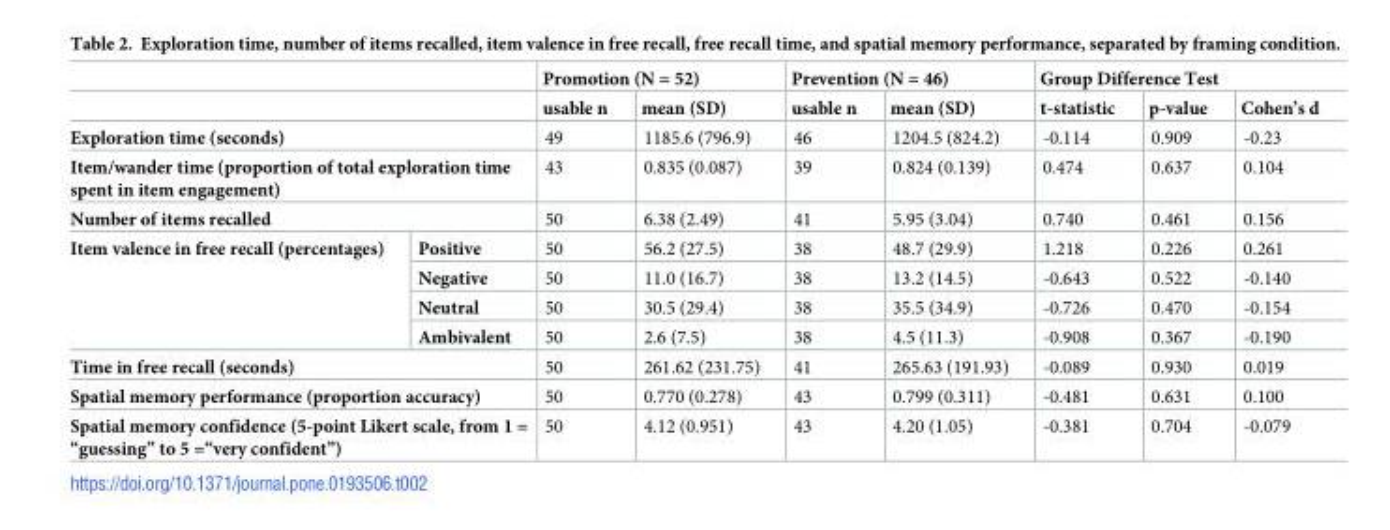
<table><thead><tr><td rowspan="2"></td><td rowspan="2"></td><td colspan="2">Promotion (N = 52)</td><td colspan="2">Prevention (N = 46)</td><td colspan="3">Group Difference Test</td></tr><tr><td>usable n</td><td>mean (SD)</td><td>usable n</td><td>mean (SD)</td><td>t-statistic</td><td>p-value</td><td>Cohen’s d</td></tr></thead><tbody><tr><td colspan="2">Exploration time (seconds)</td><td>49</td><td>1185.6 (796.9)</td><td>46</td><td>1204.5 (824.2)</td><td>-0.114</td><td>0.909</td><td>-0.23</td></tr><tr><td colspan="2">Item/wander time (proportion of total exploration time spent in item engagement)</td><td>43</td><td>0.835 (0.087)</td><td>39</td><td>0.824 (0.139)</td><td>0.474</td><td>0.637</td><td>0.104</td></tr><tr><td colspan="2">Number of items recalled</td><td>50</td><td>6.38 (2.49)</td><td>41</td><td>5.95 (3.04)</td><td>0.740</td><td>0.461</td><td>0.156</td></tr><tr><td rowspan="4">Item valence in free recall (percentages)</td><td>Positive</td><td>50</td><td>56.2 (27.5)</td><td>38</td><td>48.7 (29.9)</td><td>1.218</td><td>0.226</td><td>0.261</td></tr><tr><td>Negative</td><td>50</td><td>11.0 (16.7)</td><td>38</td><td>13.2 (14.5)</td><td>-0.643</td><td>0.522</td><td>-0.140</td></tr><tr><td>Neutral</td><td>50</td><td>30.5 (29.4)</td><td>38</td><td>35.5 (34.9)</td><td>-0.726</td><td>0.470</td><td>-0.154</td></tr><tr><td>Ambivalent</td><td>50</td><td>2.6 (7.5)</td><td>38</td><td>4.5 (11.3)</td><td>-0.908</td><td>0.367</td><td>-0.190</td></tr><tr><td colspan="2">Time in free recall (seconds)</td><td>50</td><td>261.62 (231.75)</td><td>41</td><td>265.63 (191.93)</td><td>-0.089</td><td>0.930</td><td>0.019</td></tr><tr><td colspan="2">Spatial memory performance (proportion accuracy)</td><td>50</td><td>0.770 (0.278)</td><td>43</td><td>0.799 (0.311)</td><td>-0.481</td><td>0.631</td><td>0.100</td></tr><tr><td colspan="2">Spatial memory confidence (5-point Likert scale, from 1 = “guessing” to 5 =“very confident”)</td><td>50</td><td>4.12 (0.951)</td><td>43</td><td>4.20 (1.05)</td><td>-0.381</td><td>0.704</td><td>-0.079</td></tr></tbody></table>